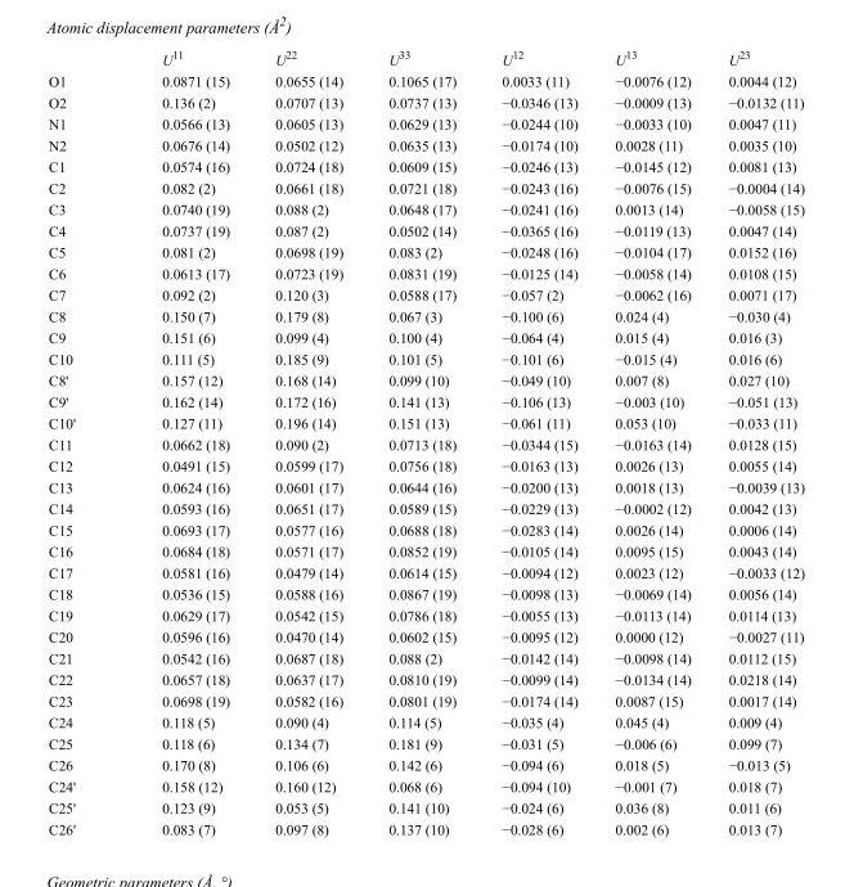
<table><thead><tr><td></td><td>U<sup>11</sup></td><td>U<sup>22</sup></td><td>U<sup>33</sup></td><td>U<sup>12</sup></td><td>U<sup>13</sup></td><td>U<sup>23</sup></td></tr></thead><tbody><tr><td>O1</td><td>0.0871 (15)</td><td>0.0655 (14)</td><td>0.1065 (17)</td><td>0.0033 (11)</td><td>−0.0076 (12)</td><td>0.0044 (12)</td></tr><tr><td>O2</td><td>0.136 (2)</td><td>0.0707 (13)</td><td>0.0737 (13)</td><td>−0.0346 (13)</td><td>−0.0009 (13)</td><td>−0.0132 (11)</td></tr><tr><td>N1</td><td>0.0566 (13)</td><td>0.0605 (13)</td><td>0.0629 (13)</td><td>−0.0244 (10)</td><td>−0.0033 (10)</td><td>0.0047 (11)</td></tr><tr><td>N2</td><td>0.0676 (14)</td><td>0.0502 (12)</td><td>0.0635 (13)</td><td>−0.0174 (10)</td><td>0.0028 (11)</td><td>0.0035 (10)</td></tr><tr><td>C1</td><td>0.0574 (16)</td><td>0.0724 (18)</td><td>0.0609 (15)</td><td>−0.0246 (13)</td><td>−0.0145 (12)</td><td>0.0081 (13)</td></tr><tr><td>C2</td><td>0.082 (2)</td><td>0.0661 (18)</td><td>0.0721 (18)</td><td>−0.0243 (16)</td><td>−0.0076 (15)</td><td>−0.0004 (14)</td></tr><tr><td>C3</td><td>0.0740 (19)</td><td>0.088 (2)</td><td>0.0648 (17)</td><td>−0.0241 (16)</td><td>0.0013 (14)</td><td>−0.0058 (15)</td></tr><tr><td>C4</td><td>0.0737 (19)</td><td>0.087 (2)</td><td>0.0502 (14)</td><td>−0.0365 (16)</td><td>−0.0119 (13)</td><td>0.0047 (14)</td></tr><tr><td>C5</td><td>0.081 (2)</td><td>0.0698 (19)</td><td>0.083 (2)</td><td>−0.0248 (16)</td><td>−0.0104 (17)</td><td>0.0152 (16)</td></tr><tr><td>C6</td><td>0.0613 (17)</td><td>0.0723 (19)</td><td>0.0831 (19)</td><td>−0.0125 (14)</td><td>−0.0058 (14)</td><td>0.0108 (15)</td></tr><tr><td>C7</td><td>0.092 (2)</td><td>0.120 (3)</td><td>0.0588 (17)</td><td>−0.057 (2)</td><td>−0.0062 (16)</td><td>0.0071 (17)</td></tr><tr><td>C8</td><td>0.150 (7)</td><td>0.179 (8)</td><td>0.067 (3)</td><td>−0.100 (6)</td><td>0.024 (4)</td><td>−0.030 (4)</td></tr><tr><td>C9</td><td>0.151 (6)</td><td>0.099 (4)</td><td>0.100 (4)</td><td>−0.064 (4)</td><td>0.015 (4)</td><td>0.016 (3)</td></tr><tr><td>C10</td><td>0.111 (5)</td><td>0.185 (9)</td><td>0.101 (5)</td><td>−0.101 (6)</td><td>−0.015 (4)</td><td>0.016 (6)</td></tr><tr><td>C8&#x27;</td><td>0.157 (12)</td><td>0.168 (14)</td><td>0.099 (10)</td><td>−0.049 (10)</td><td>0.007 (8)</td><td>0.027 (10)</td></tr><tr><td>C9&#x27;</td><td>0.162 (14)</td><td>0.172 (16)</td><td>0.141 (13)</td><td>−0.106 (13)</td><td>−0.003 (10)</td><td>−0.051 (13)</td></tr><tr><td>C10&#x27;</td><td>0.127 (11)</td><td>0.196 (14)</td><td>0.151 (13)</td><td>−0.061 (11)</td><td>0.053 (10)</td><td>−0.033 (11)</td></tr><tr><td>C11</td><td>0.0662 (18)</td><td>0.090 (2)</td><td>0.0713 (18)</td><td>−0.0344 (15)</td><td>−0.0163 (14)</td><td>0.0128 (15)</td></tr><tr><td>C12</td><td>0.0491 (15)</td><td>0.0599 (17)</td><td>0.0756 (18)</td><td>−0.0163 (13)</td><td>0.0026 (13)</td><td>0.0055 (14)</td></tr><tr><td>C13</td><td>0.0624 (16)</td><td>0.0601 (17)</td><td>0.0644 (16)</td><td>−0.0200 (13)</td><td>0.0018 (13)</td><td>−0.0039 (13)</td></tr><tr><td>C14</td><td>0.0593 (16)</td><td>0.0651 (17)</td><td>0.0589 (15)</td><td>−0.0229 (13)</td><td>−0.0002 (12)</td><td>0.0042 (13)</td></tr><tr><td>C15</td><td>0.0693 (17)</td><td>0.0577 (16)</td><td>0.0688 (18)</td><td>−0.0283 (14)</td><td>0.0026 (14)</td><td>0.0006 (14)</td></tr><tr><td>C16</td><td>0.0684 (18)</td><td>0.0571 (17)</td><td>0.0852 (19)</td><td>−0.0105 (14)</td><td>0.0095 (15)</td><td>0.0043 (14)</td></tr><tr><td>C17</td><td>0.0581 (16)</td><td>0.0479 (14)</td><td>0.0614 (15)</td><td>−0.0094 (12)</td><td>0.0023 (12)</td><td>−0.0033 (12)</td></tr><tr><td>C18</td><td>0.0536 (15)</td><td>0.0588 (16)</td><td>0.0867 (19)</td><td>−0.0098 (13)</td><td>−0.0069 (14)</td><td>0.0056 (14)</td></tr><tr><td>C19</td><td>0.0629 (17)</td><td>0.0542 (15)</td><td>0.0786 (18)</td><td>−0.0055 (13)</td><td>−0.0113 (14)</td><td>0.0114 (13)</td></tr><tr><td>C20</td><td>0.0596 (16)</td><td>0.0470 (14)</td><td>0.0602 (15)</td><td>−0.0095 (12)</td><td>0.0000 (12)</td><td>−0.0027 (11)</td></tr><tr><td>C21</td><td>0.0542 (16)</td><td>0.0687 (18)</td><td>0.088 (2)</td><td>−0.0142 (14)</td><td>−0.0098 (14)</td><td>0.0112 (15)</td></tr><tr><td>C22</td><td>0.0657 (18)</td><td>0.0637 (17)</td><td>0.0810 (19)</td><td>−0.0099 (14)</td><td>−0.0134 (14)</td><td>0.0218 (14)</td></tr><tr><td>C23</td><td>0.0698 (19)</td><td>0.0582 (16)</td><td>0.0801 (19)</td><td>−0.0174 (14)</td><td>0.0087 (15)</td><td>0.0017 (14)</td></tr><tr><td>C24</td><td>0.118 (5)</td><td>0.090 (4)</td><td>0.114 (5)</td><td>−0.035 (4)</td><td>0.045 (4)</td><td>0.009 (4)</td></tr><tr><td>C25</td><td>0.118 (6)</td><td>0.134 (7)</td><td>0.181 (9)</td><td>−0.031 (5)</td><td>−0.006 (6)</td><td>0.099 (7)</td></tr><tr><td>C26</td><td>0.170 (8)</td><td>0.106 (6)</td><td>0.142 (6)</td><td>−0.094 (6)</td><td>0.018 (5)</td><td>−0.013 (5)</td></tr><tr><td>C24&#x27;</td><td>0.158 (12)</td><td>0.160 (12)</td><td>0.068 (6)</td><td>−0.094 (10)</td><td>−0.001 (7)</td><td>0.018 (7)</td></tr><tr><td>C25&#x27;</td><td>0.123 (9)</td><td>0.053 (5)</td><td>0.141 (10)</td><td>−0.024 (6)</td><td>0.036 (8)</td><td>0.011 (6)</td></tr><tr><td>C26&#x27;</td><td>0.083 (7)</td><td>0.097 (8)</td><td>0.137 (10)</td><td>−0.028 (6)</td><td>0.002 (6)</td><td>0.013 (7)</td></tr></tbody></table>